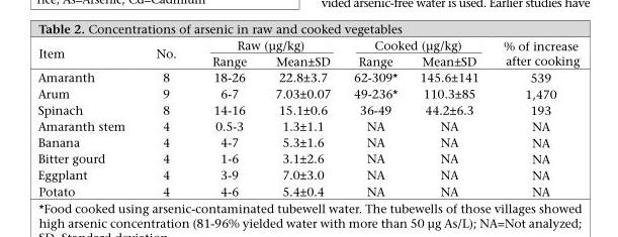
<table><thead><tr><td rowspan="2">Item</td><td rowspan="2">No.</td><td colspan="2">Raw (µg/kg)</td><td colspan="2">Cooked (µg/kg)</td><td rowspan="2">% of increase after cooking</td></tr><tr><td>Range</td><td>Mean±SD</td><td>Range</td><td>Mean±SD</td></tr></thead><tbody><tr><td>Amaranth</td><td>8</td><td>18-26</td><td>22.8±3.7</td><td>62-309*</td><td>145.6±141</td><td>539</td></tr><tr><td>Arum</td><td>9</td><td>6-7</td><td>7.03±0.07</td><td>49-236*</td><td>110.3±85</td><td>1,470</td></tr><tr><td>Spinach</td><td>8</td><td>14-16</td><td>15.1±0.6</td><td>36-49</td><td>44.2±6.3</td><td>193</td></tr><tr><td>Amaranth stem</td><td>4</td><td>0.5-3</td><td>1.3±1.1</td><td>NA</td><td>NA</td><td>NA</td></tr><tr><td>Banana</td><td>4</td><td>4-7</td><td>5.3±1.6</td><td>NA</td><td>NA</td><td>NA</td></tr><tr><td>Bitter gourd</td><td>4</td><td>1-6</td><td>3.1±2.6</td><td>NA</td><td>NA</td><td>NA</td></tr><tr><td>Eggplant</td><td>4</td><td>3-9</td><td>7.0±3.0</td><td>NA</td><td>NA</td><td>NA</td></tr><tr><td>Potato</td><td>4</td><td>4-6</td><td>5.4±0.4</td><td>NA</td><td>NA</td><td>NA</td></tr></tbody></table>